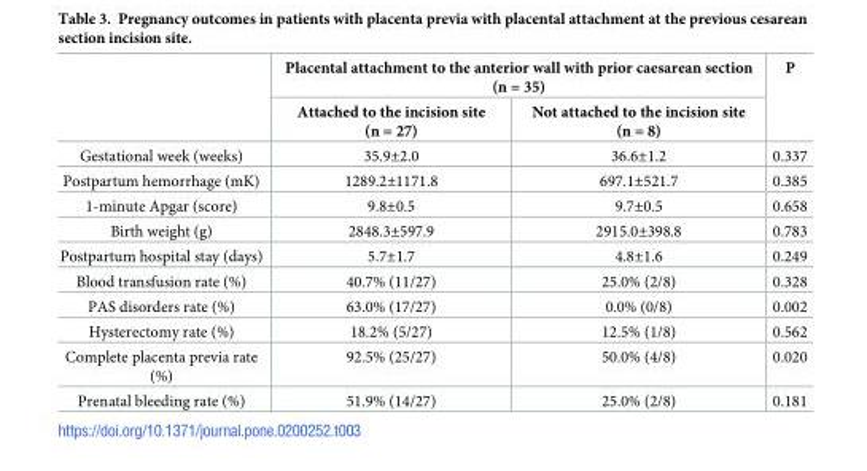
<table><thead><tr><td rowspan="2"></td><td colspan="2">Placental attachment to the anterior wall with prior caesarean section (n = 35)</td><td rowspan="2">P</td></tr><tr><td>Attached to the incision site (n = 27)</td><td>Not attached to the incision site (n = 8)</td></tr></thead><tbody><tr><td>Gestational week (weeks)</td><td>35.9±2.0</td><td>36.6±1.2</td><td>0.337</td></tr><tr><td>Postpartum hemorrhage (mK)</td><td>1289.2±1171.8</td><td>697.1±521.7</td><td>0.385</td></tr><tr><td>1-minute Apgar (score)</td><td>9.8±0.5</td><td>9.7±0.5</td><td>0.658</td></tr><tr><td>Birth weight (g)</td><td>2848.3±597.9</td><td>2915.0±398.8</td><td>0.783</td></tr><tr><td>Postpartum hospital stay (days)</td><td>5.7±1.7</td><td>4.8±1.6</td><td>0.249</td></tr><tr><td>Blood transfusion rate (%)</td><td>40.7% (11/27)</td><td>25.0% (2/8)</td><td>0.328</td></tr><tr><td>PAS disorders rate (%)</td><td>63.0% (17/27)</td><td>0.0% (0/8)</td><td>0.002</td></tr><tr><td>Hysterectomy rate (%)</td><td>18.2% (5/27)</td><td>12.5% (1/8)</td><td>0.562</td></tr><tr><td>Complete placenta previa rate (%)</td><td>92.5% (25/27)</td><td>50.0% (4/8)</td><td>0.020</td></tr><tr><td>Prenatal bleeding rate (%)</td><td>51.9% (14/27)</td><td>25.0% (2/8)</td><td>0.181</td></tr></tbody></table>